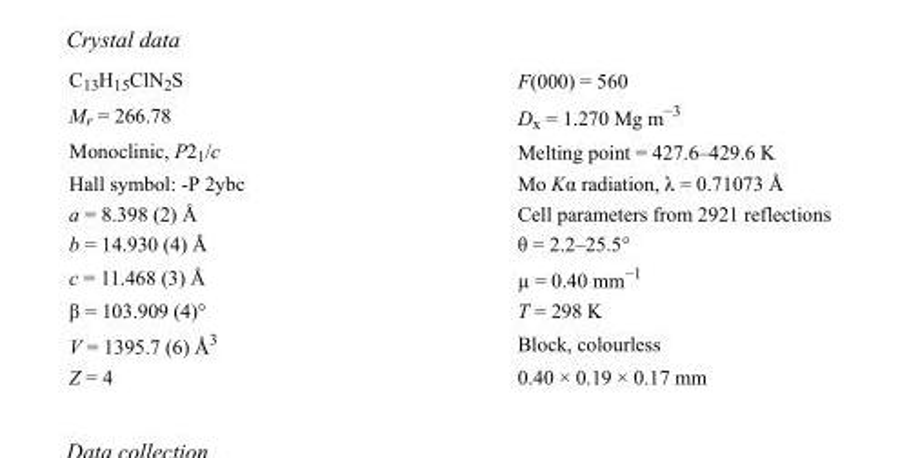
<table><tbody><tr><td>C<sub>13</sub>H<sub>15</sub>ClN<sub>2</sub>S</td><td>F(000) = 560</td></tr><tr><td>M<sub>r</sub> = 266.78</td><td>D<sub>x</sub> = 1.270 Mg m<sup>−3</sup></td></tr><tr><td>Monoclinic, P2<sub>1</sub>/c</td><td>Melting point = 427.6–429.6 K</td></tr><tr><td>Hall symbol: -P 2ybc</td><td>Mo Kα radiation, λ = 0.71073 Å</td></tr><tr><td>a = 8.398 (2) Å</td><td>Cell parameters from 2921 reflections</td></tr><tr><td>b = 14.930 (4) Å</td><td>θ = 2.2–25.5°</td></tr><tr><td>c = 11.468 (3) Å</td><td>µ = 0.40 mm<sup>−1</sup></td></tr><tr><td>β = 103.909 (4)°</td><td>T = 298 K</td></tr><tr><td>V = 1395.7 (6) Å<sup>3</sup></td><td>Block, colourless</td></tr><tr><td>Z = 4</td><td>0.40 × 0.19 × 0.17 mm</td></tr></tbody></table>